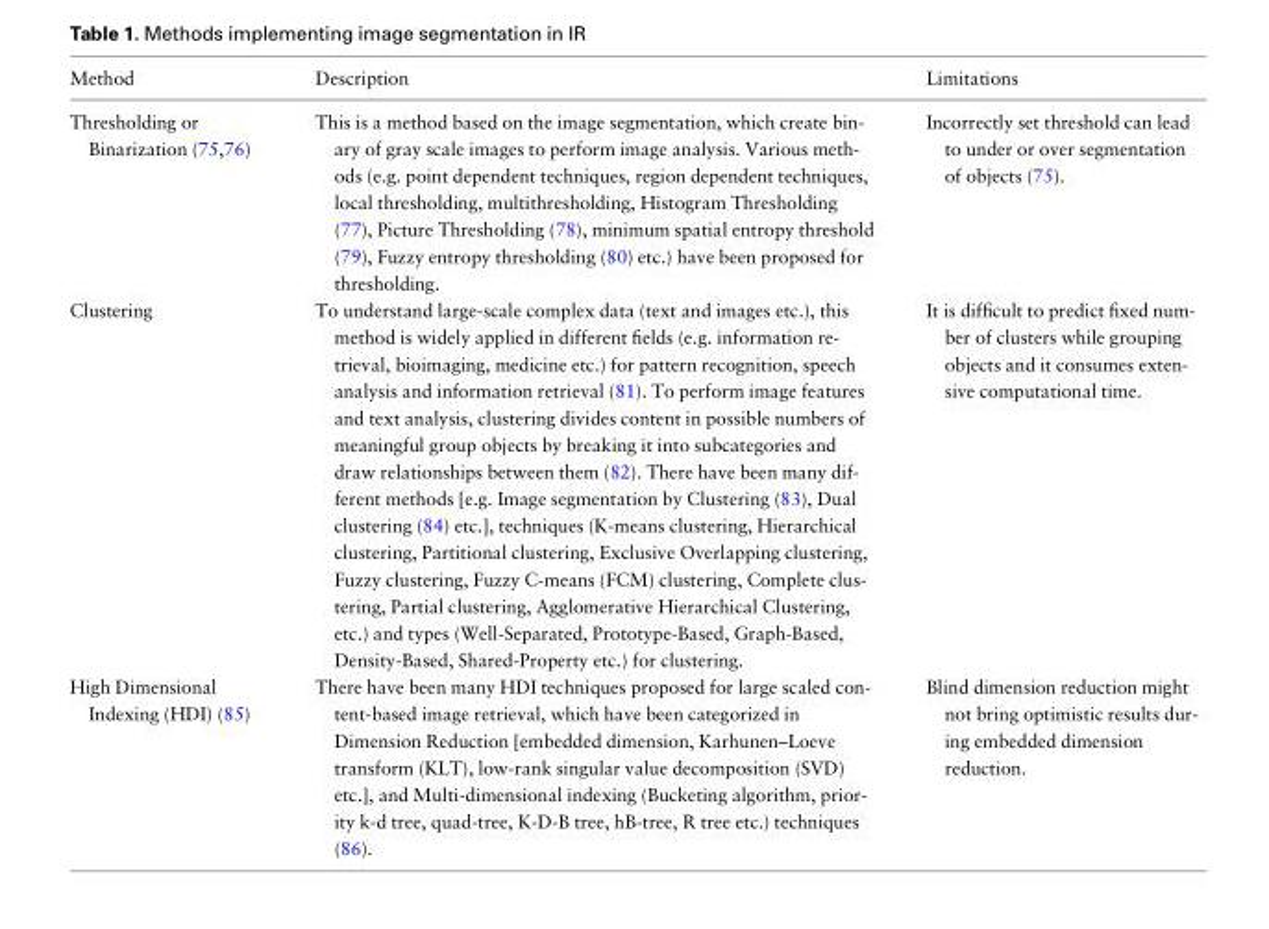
<table><thead><tr><td>Method</td><td>Description</td><td>Limitations</td></tr></thead><tbody><tr><td>Thresholding or Binarization (75,76)</td><td>This is a method based on the image segmentation, which create bin- ary of gray scale images to perform image analysis. Various meth- ods (e.g. point dependent techniques, region dependent techniques, local thresholding, multithresholding, Histogram Thresholding (77), Picture Thresholding (78), minimum spatial entropy threshold (79), Fuzzy entropy thresholding (80) etc.) have been proposed for thresholding.</td><td>Incorrectly set threshold can lead to under or over segmentation of objects (75).</td></tr><tr><td>Clustering</td><td>To understand large-scale complex data (text and images etc.), this method is widely applied in different fields (e.g. information re- trieval, bioimaging, medicine etc.) for pattern recognition, speech analysis and information retrieval (81). To perform image features and text analysis, clustering divides content in possible numbers of meaningful group objects by breaking it into subcategories and draw relationships between them (82). There have been many dif- ferent methods [e.g. Image segmentation by Clustering (83), Dual clustering (84) etc.], techniques (K-means clustering, Hierarchical clustering, Partitional clustering, Exclusive Overlapping clustering, Fuzzy clustering, Fuzzy C-means (FCM) clustering, Complete clus- tering, Partial clustering, Agglomerative Hierarchical Clustering, etc.) and types (Well-Separated, Prototype-Based, Graph-Based, Density-Based, Shared-Property etc.) for clustering.</td><td>It is difficult to predict fixed num- ber of clusters while grouping objects and it consumes exten- sive computational time.</td></tr><tr><td>High Dimensional Indexing (HDI) (85)</td><td>There have been many HDI techniques proposed for large scaled con- tent-based image retrieval, which have been categorized in Dimension Reduction [embedded dimension, Karhunen–Loeve transform (KLT), low-rank singular value decomposition (SVD) etc.], and Multi-dimensional indexing (Bucketing algorithm, prior- ity k-d tree, quad-tree, K-D-B tree, hB-tree, R tree etc.) techniques (86).</td><td>Blind dimension reduction might not bring optimistic results dur- ing embedded dimension reduction.</td></tr></tbody></table>